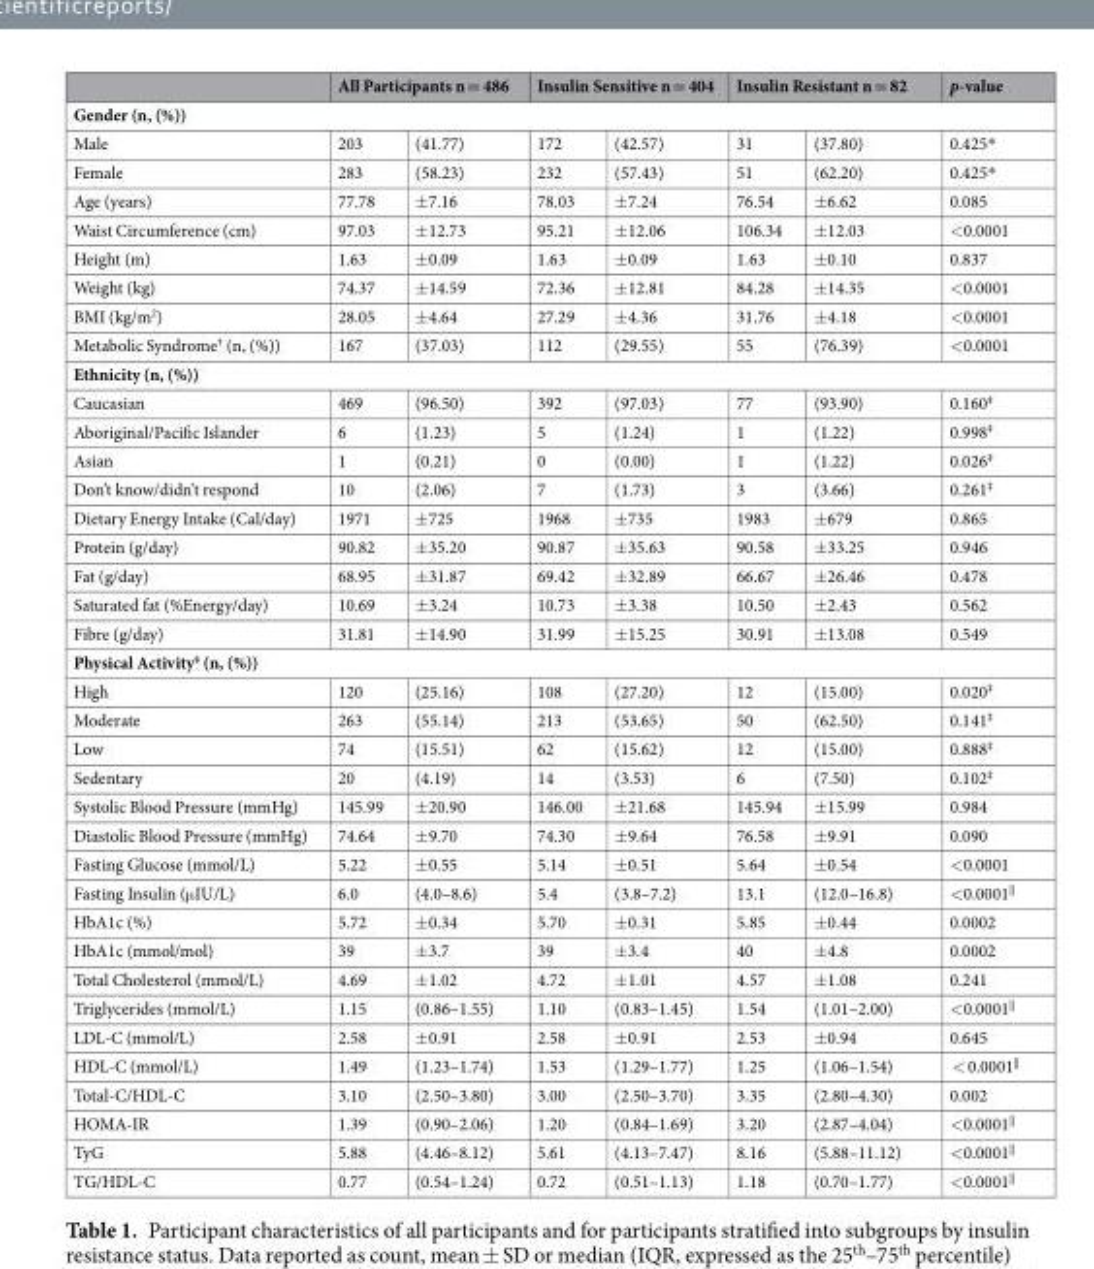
<table><thead><tr><td></td><td colspan="2">All Participants n = 486</td><td colspan="2">Insulin Sensitive n = 404</td><td colspan="2">Insulin Resistant n = 82</td><td>p-value</td></tr><tr><td colspan="8">Gender (n, (%))</td></tr><tr><td>Male</td><td>203</td><td>(41.77)</td><td>172</td><td>(42.57)</td><td>31</td><td>(37.80)</td><td>0.425*</td></tr></thead><tbody><tr><td>Female</td><td>283</td><td>(58.23)</td><td>232</td><td>(57.43)</td><td>51</td><td>(62.20)</td><td>0.425*</td></tr><tr><td>Age (years)</td><td>77.78</td><td>±7.16</td><td>78.03</td><td>±7.24</td><td>76.54</td><td>±6.62</td><td>0.085</td></tr><tr><td>Waist Circumference (cm)</td><td>97.03</td><td>±12.73</td><td>95.21</td><td>±12.06</td><td>106.34</td><td>±12.03</td><td>&lt;0.0001</td></tr><tr><td>Height (m)</td><td>1.63</td><td>±0.09</td><td>1.63</td><td>±0.09</td><td>1.63</td><td>±0.10</td><td>0.837</td></tr><tr><td>Weight (kg)</td><td>74.37</td><td>±14.59</td><td>72.36</td><td>±12.81</td><td>84.28</td><td>±14.35</td><td>&lt;0.0001</td></tr><tr><td>BMI (kg/m<sup>2</sup>)</td><td>28.05</td><td>±4.64</td><td>27.29</td><td>±4.36</td><td>31.76</td><td>±4.18</td><td>&lt;0.0001</td></tr><tr><td>Metabolic Syndrome<sup>†</sup> (n, (%))</td><td>167</td><td>(37.03)</td><td>112</td><td>(29.55)</td><td>55</td><td>(76.39)</td><td>&lt;0.0001</td></tr><tr><td colspan="8">Ethnicity (n, (%))</td></tr><tr><td>Caucasian</td><td>469</td><td>(96.50)</td><td>392</td><td>(97.03)</td><td>77</td><td>(93.90)</td><td>0.160<sup>‡</sup></td></tr><tr><td>Aboriginal/Pacific Islander</td><td>6</td><td>(1.23)</td><td>5</td><td>(1.24)</td><td>1</td><td>(1.22)</td><td>0.998<sup>‡</sup></td></tr><tr><td>Asian</td><td>1</td><td>(0.21)</td><td>0</td><td>(0.00)</td><td>1</td><td>(1.22)</td><td>0.026<sup>‡</sup></td></tr><tr><td>Don’t know/didn’t respond</td><td>10</td><td>(2.06)</td><td>7</td><td>(1.73)</td><td>3</td><td>(3.66)</td><td>0.261<sup>‡</sup></td></tr><tr><td>Dietary Energy Intake (Cal/day)</td><td>1971</td><td>±725</td><td>1968</td><td>±735</td><td>1983</td><td>±679</td><td>0.865</td></tr><tr><td>Protein (g/day)</td><td>90.82</td><td>±35.20</td><td>90.87</td><td>±35.63</td><td>90.58</td><td>±33.25</td><td>0.946</td></tr><tr><td>Fat (g/day)</td><td>68.95</td><td>±31.87</td><td>69.42</td><td>±32.89</td><td>66.67</td><td>±26.46</td><td>0.478</td></tr><tr><td>Saturated fat (%Energy/day)</td><td>10.69</td><td>±3.24</td><td>10.73</td><td>±3.38</td><td>10.50</td><td>±2.43</td><td>0.562</td></tr><tr><td>Fibre (g/day)</td><td>31.81</td><td>±14.90</td><td>31.99</td><td>±15.25</td><td>30.91</td><td>±13.08</td><td>0.549</td></tr><tr><td colspan="8">Physical Activity<sup>§</sup> (n, (%))</td></tr><tr><td>High</td><td>120</td><td>(25.16)</td><td>108</td><td>(27.20)</td><td>12</td><td>(15.00)</td><td>0.020<sup>‡</sup></td></tr><tr><td>Moderate</td><td>263</td><td>(55.14)</td><td>213</td><td>(53.65)</td><td>50</td><td>(62.50)</td><td>0.141<sup>‡</sup></td></tr><tr><td>Low</td><td>74</td><td>(15.51)</td><td>62</td><td>(15.62)</td><td>12</td><td>(15.00)</td><td>0.888<sup>‡</sup></td></tr><tr><td>Sedentary</td><td>20</td><td>(4.19)</td><td>14</td><td>(3.53)</td><td>6</td><td>(7.50)</td><td>0.102<sup>‡</sup></td></tr><tr><td>Systolic Blood Pressure (mmHg)</td><td>145.99</td><td>±20.90</td><td>146.00</td><td>±21.68</td><td>145.94</td><td>±15.99</td><td>0.984</td></tr><tr><td>Diastolic Blood Pressure (mmHg)</td><td>74.64</td><td>±9.70</td><td>74.30</td><td>±9.64</td><td>76.58</td><td>±9.91</td><td>0.090</td></tr><tr><td>Fasting Glucose (mmol/L)</td><td>5.22</td><td>±0.55</td><td>5.14</td><td>±0.51</td><td>5.64</td><td>±0.54</td><td>&lt;0.0001</td></tr><tr><td>Fasting Insulin (μIU/L)</td><td>6.0</td><td>(4.0–8.6)</td><td>5.4</td><td>(3.8–7.2)</td><td>13.1</td><td>(12.0–16.8)</td><td>&lt;0.0001<sup>||</sup></td></tr><tr><td>HbA1c (%)</td><td>5.72</td><td>±0.34</td><td>5.70</td><td>±0.31</td><td>5.85</td><td>±0.44</td><td>0.0002</td></tr><tr><td>HbA1c (mmol/mol)</td><td>39</td><td>±3.7</td><td>39</td><td>±3.4</td><td>40</td><td>±4.8</td><td>0.0002</td></tr><tr><td>Total Cholesterol (mmol/L)</td><td>4.69</td><td>±1.02</td><td>4.72</td><td>±1.01</td><td>4.57</td><td>±1.08</td><td>0.241</td></tr><tr><td>Triglycerides (mmol/L)</td><td>1.15</td><td>(0.86–1.55)</td><td>1.10</td><td>(0.83–1.45)</td><td>1.54</td><td>(1.01–2.00)</td><td>&lt;0.0001<sup>||</sup></td></tr><tr><td>LDL-C (mmol/L)</td><td>2.58</td><td>±0.91</td><td>2.58</td><td>±0.91</td><td>2.53</td><td>±0.94</td><td>0.645</td></tr><tr><td>HDL-C (mmol/L)</td><td>1.49</td><td>(1.23–1.74)</td><td>1.53</td><td>(1.29–1.77)</td><td>1.25</td><td>(1.06–1.54)</td><td>&lt; 0.0001<sup>||</sup></td></tr><tr><td>Total-C/HDL-C</td><td>3.10</td><td>(2.50–3.80)</td><td>3.00</td><td>(2.50–3.70)</td><td>3.35</td><td>(2.80–4.30)</td><td>0.002</td></tr><tr><td>HOMA-IR</td><td>1.39</td><td>(0.90–2.06)</td><td>1.20</td><td>(0.84–1.69)</td><td>3.20</td><td>(2.87–4.04)</td><td>&lt;0.0001<sup>||</sup></td></tr><tr><td>TyG</td><td>5.88</td><td>(4.46–8.12)</td><td>5.61</td><td>(4.13–7.47)</td><td>8.16</td><td>(5.88–11.12)</td><td>&lt;0.0001<sup>||</sup></td></tr><tr><td>TG/HDL-C</td><td>0.77</td><td>(0.54–1.24)</td><td>0.72</td><td>(0.51–1.13)</td><td>1.18</td><td>(0.70–1.77)</td><td>&lt;0.0001<sup>||</sup></td></tr></tbody></table>